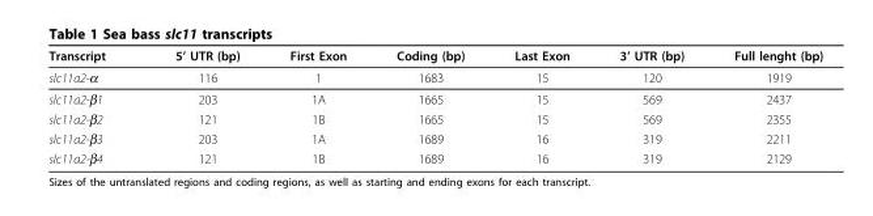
<table><thead><tr><td>Transcript</td><td>5’ UTR (bp)</td><td>First Exon</td><td>Coding (bp)</td><td>Last Exon</td><td>3’ UTR (bp)</td><td>Full lenght (bp)</td></tr></thead><tbody><tr><td>slc11a2-α</td><td>116</td><td>1</td><td>1683</td><td>15</td><td>120</td><td>1919</td></tr><tr><td>slc11a2-β1</td><td>203</td><td>1A</td><td>1665</td><td>15</td><td>569</td><td>2437</td></tr><tr><td>slc11a2-β2</td><td>121</td><td>1B</td><td>1665</td><td>15</td><td>569</td><td>2355</td></tr><tr><td>slc11a2-β3</td><td>203</td><td>1A</td><td>1689</td><td>16</td><td>319</td><td>2211</td></tr><tr><td>slc11a2-β4</td><td>121</td><td>1B</td><td>1689</td><td>16</td><td>319</td><td>2129</td></tr></tbody></table>